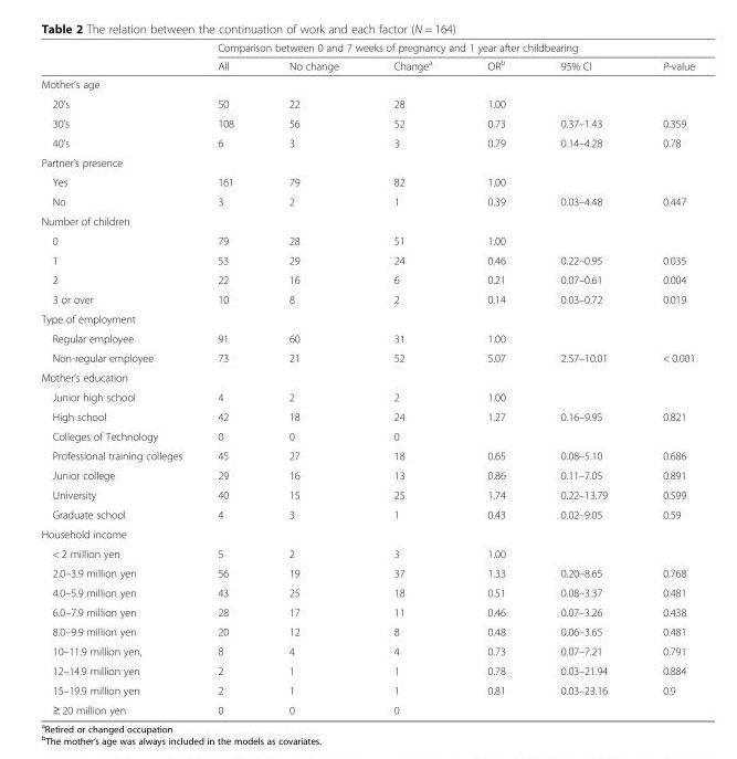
<table><thead><tr><td rowspan="2"></td><td colspan="6">Comparison between 0 and 7 weeks of pregnancy and 1 year after childbearing</td></tr><tr><td>All</td><td>No change</td><td>Change<sup>a</sup></td><td>OR<sup>b</sup></td><td>95% CI</td><td>P-value</td></tr></thead><tbody><tr><td colspan="7">Mother’s age</td></tr><tr><td>20’s</td><td>50</td><td>22</td><td>28</td><td>1.00</td><td></td><td></td></tr><tr><td>30’s</td><td>108</td><td>56</td><td>52</td><td>0.73</td><td>0.37–1.43</td><td>0.359</td></tr><tr><td>40’s</td><td>6</td><td>3</td><td>3</td><td>0.79</td><td>0.14–4.28</td><td>0.78</td></tr><tr><td colspan="7">Partner’s presence</td></tr><tr><td>Yes</td><td>161</td><td>79</td><td>82</td><td>1.00</td><td></td><td></td></tr><tr><td>No</td><td>3</td><td>2</td><td>1</td><td>0.39</td><td>0.03–4.48</td><td>0.447</td></tr><tr><td colspan="7">Number of children</td></tr><tr><td>0</td><td>79</td><td>28</td><td>51</td><td>1.00</td><td></td><td></td></tr><tr><td>1</td><td>53</td><td>29</td><td>24</td><td>0.46</td><td>0.22–0.95</td><td>0.035</td></tr><tr><td>2</td><td>22</td><td>16</td><td>6</td><td>0.21</td><td>0.07–0.61</td><td>0.004</td></tr><tr><td>3 or over</td><td>10</td><td>8</td><td>2</td><td>0.14</td><td>0.03–0.72</td><td>0.019</td></tr><tr><td colspan="7">Type of employment</td></tr><tr><td>Regular employee</td><td>91</td><td>60</td><td>31</td><td>1.00</td><td></td><td></td></tr><tr><td>Non-regular employee</td><td>73</td><td>21</td><td>52</td><td>5.07</td><td>2.57–10.01</td><td>&lt; 0.001</td></tr><tr><td colspan="7">Mother’s education</td></tr><tr><td>Junior high school</td><td>4</td><td>2</td><td>2</td><td>1.00</td><td></td><td></td></tr><tr><td>High school</td><td>42</td><td>18</td><td>24</td><td>1.27</td><td>0.16–9.95</td><td>0.821</td></tr><tr><td>Colleges of Technology</td><td>0</td><td>0</td><td>0</td><td></td><td></td><td></td></tr><tr><td>Professional training colleges</td><td>45</td><td>27</td><td>18</td><td>0.65</td><td>0.08–5.10</td><td>0.686</td></tr><tr><td>Junior college</td><td>29</td><td>16</td><td>13</td><td>0.86</td><td>0.11–7.05</td><td>0.891</td></tr><tr><td>University</td><td>40</td><td>15</td><td>25</td><td>1.74</td><td>0.22–13.79</td><td>0.599</td></tr><tr><td>Graduate school</td><td>4</td><td>3</td><td>1</td><td>0.43</td><td>0.02–9.05</td><td>0.59</td></tr><tr><td colspan="7">Household income</td></tr><tr><td>&lt; 2 million yen</td><td>5</td><td>2</td><td>3</td><td>1.00</td><td></td><td></td></tr><tr><td>2.0–3.9 million yen</td><td>56</td><td>19</td><td>37</td><td>1.33</td><td>0.20–8.65</td><td>0.768</td></tr><tr><td>4.0–5.9 million yen</td><td>43</td><td>25</td><td>18</td><td>0.51</td><td>0.08–3.37</td><td>0.481</td></tr><tr><td>6.0–7.9 million yen</td><td>28</td><td>17</td><td>11</td><td>0.46</td><td>0.07–3.26</td><td>0.438</td></tr><tr><td>8.0–9.9 million yen</td><td>20</td><td>12</td><td>8</td><td>0.48</td><td>0.06–3.65</td><td>0.481</td></tr><tr><td>10–11.9 million yen,</td><td>8</td><td>4</td><td>4</td><td>0.73</td><td>0.07–7.21</td><td>0.791</td></tr><tr><td>12–14.9 million yen</td><td>2</td><td>1</td><td>1</td><td>0.78</td><td>0.03–21.94</td><td>0.884</td></tr><tr><td>15–19.9 million yen</td><td>2</td><td>1</td><td>1</td><td>0.81</td><td>0.03–23.16</td><td>0.9</td></tr><tr><td>≥ 20 million yen</td><td>0</td><td>0</td><td>0</td><td></td><td></td><td></td></tr></tbody></table>